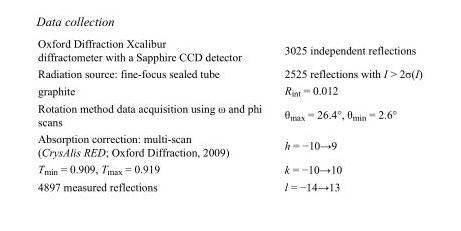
<table><tbody><tr><td>Oxford Diffraction Xcalibur diffractometer with a Sapphire CCD detector</td><td>3025 independent reflections</td></tr><tr><td>Radiation source: fine-focus sealed tube</td><td>2525 reflections with I &gt; 2σ(I)</td></tr><tr><td>graphite</td><td>R<sub>int</sub> = 0.012</td></tr><tr><td>Rotation method data acquisition using ω and phi scans</td><td>θ<sub>max</sub> = 26.4°, θ<sub>min</sub> = 2.6°</td></tr><tr><td>Absorption correction: multi-scan (CrysAlis RED; Oxford Diffraction, 2009)</td><td>h = −10→9</td></tr><tr><td>T<sub>min</sub> = 0.909, T<sub>max</sub> = 0.919</td><td>k = −10→10</td></tr><tr><td>4897 measured reflections</td><td>l = −14→13</td></tr></tbody></table>